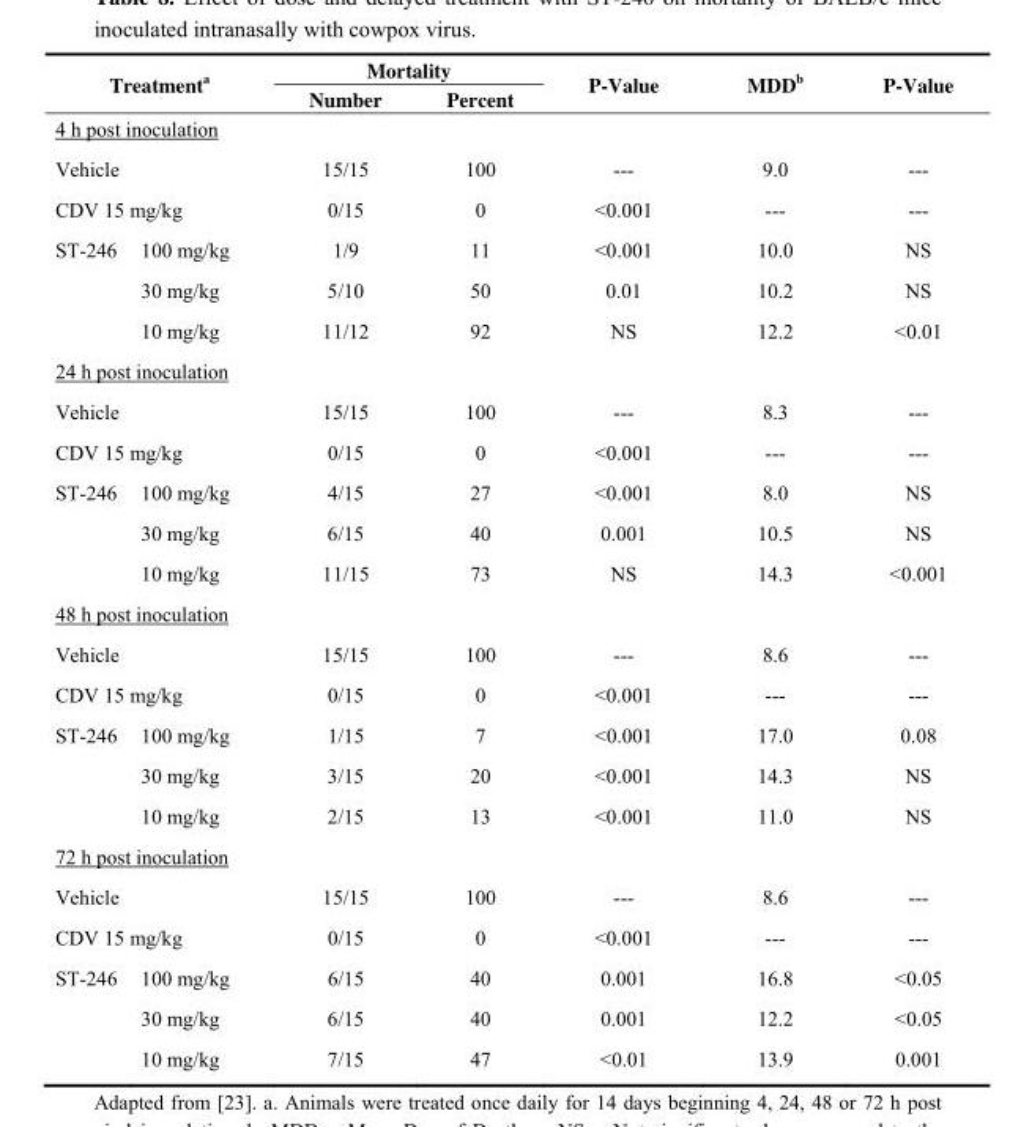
<table><thead><tr><td rowspan="2" colspan="2">Treatment<sup>a</sup></td><td colspan="2">Mortality</td><td rowspan="2">P-Value</td><td rowspan="2">MDD<sup>b</sup></td><td rowspan="2">P-Value</td></tr><tr><td>Number</td><td>Percent</td></tr></thead><tbody><tr><td colspan="7">4 h post inoculation</td></tr><tr><td colspan="2">Vehicle</td><td>15/15</td><td>100</td><td>---</td><td>9.0</td><td>---</td></tr><tr><td colspan="2">CDV 15 mg/kg</td><td>0/15</td><td>0</td><td>&lt;0.001</td><td>---</td><td>---</td></tr><tr><td rowspan="3">ST-246</td><td>100 mg/kg</td><td>1/9</td><td>11</td><td>&lt;0.001</td><td>10.0</td><td>NS</td></tr><tr><td>30 mg/kg</td><td>5/10</td><td>50</td><td>0.01</td><td>10.2</td><td>NS</td></tr><tr><td>10 mg/kg</td><td>11/12</td><td>92</td><td>NS</td><td>12.2</td><td>&lt;0.01</td></tr><tr><td colspan="7">24 h post inoculation</td></tr><tr><td colspan="2">Vehicle</td><td>15/15</td><td>100</td><td>---</td><td>8.3</td><td>---</td></tr><tr><td colspan="2">CDV 15 mg/kg</td><td>0/15</td><td>0</td><td>&lt;0.001</td><td>---</td><td>---</td></tr><tr><td rowspan="3">ST-246</td><td>100 mg/kg</td><td>4/15</td><td>27</td><td>&lt;0.001</td><td>8.0</td><td>NS</td></tr><tr><td>30 mg/kg</td><td>6/15</td><td>40</td><td>0.001</td><td>10.5</td><td>NS</td></tr><tr><td>10 mg/kg</td><td>11/15</td><td>73</td><td>NS</td><td>14.3</td><td>&lt;0.001</td></tr><tr><td colspan="7">48 h post inoculation</td></tr><tr><td colspan="2">Vehicle</td><td>15/15</td><td>100</td><td>---</td><td>8.6</td><td>---</td></tr><tr><td colspan="2">CDV 15 mg/kg</td><td>0/15</td><td>0</td><td>&lt;0.001</td><td>---</td><td>---</td></tr><tr><td rowspan="3">ST-246</td><td>100 mg/kg</td><td>1/15</td><td>7</td><td>&lt;0.001</td><td>17.0</td><td>0.08</td></tr><tr><td>30 mg/kg</td><td>3/15</td><td>20</td><td>&lt;0.001</td><td>14.3</td><td>NS</td></tr><tr><td>10 mg/kg</td><td>2/15</td><td>13</td><td>&lt;0.001</td><td>11.0</td><td>NS</td></tr><tr><td colspan="7">72 h post inoculation</td></tr><tr><td colspan="2">Vehicle</td><td>15/15</td><td>100</td><td>---</td><td>8.6</td><td>---</td></tr><tr><td colspan="2">CDV 15 mg/kg</td><td>0/15</td><td>0</td><td>&lt;0.001</td><td>---</td><td>---</td></tr><tr><td rowspan="3">ST-246</td><td>100 mg/kg</td><td>6/15</td><td>40</td><td>0.001</td><td>16.8</td><td>&lt;0.05</td></tr><tr><td>30 mg/kg</td><td>6/15</td><td>40</td><td>0.001</td><td>12.2</td><td>&lt;0.05</td></tr><tr><td>10 mg/kg</td><td>7/15</td><td>47</td><td>&lt;0.01</td><td>13.9</td><td>0.001</td></tr></tbody></table>